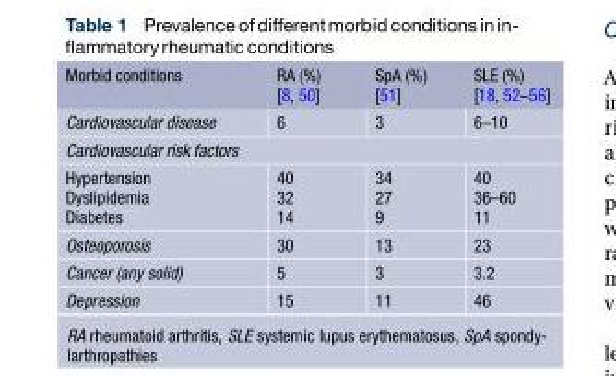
<table><thead><tr><td>Morbid conditions</td><td>RA (%) [8, 50]</td><td>SpA (%) [51]</td><td>SLE (%) [18, 52–56]</td></tr></thead><tbody><tr><td>Cardiovascular disease</td><td>6</td><td>3</td><td>6–10</td></tr><tr><td colspan="4">Cardiovascular risk factors</td></tr><tr><td>Hypertension Dyslipidemia Diabetes</td><td>40 32 14</td><td>34 27 9</td><td>40 36–60 11</td></tr><tr><td>Osteoporosis</td><td>30</td><td>13</td><td>23</td></tr><tr><td>Cancer (any solid)</td><td>5</td><td>3</td><td>3.2</td></tr><tr><td>Depression</td><td>15</td><td>11</td><td>46</td></tr></tbody></table>